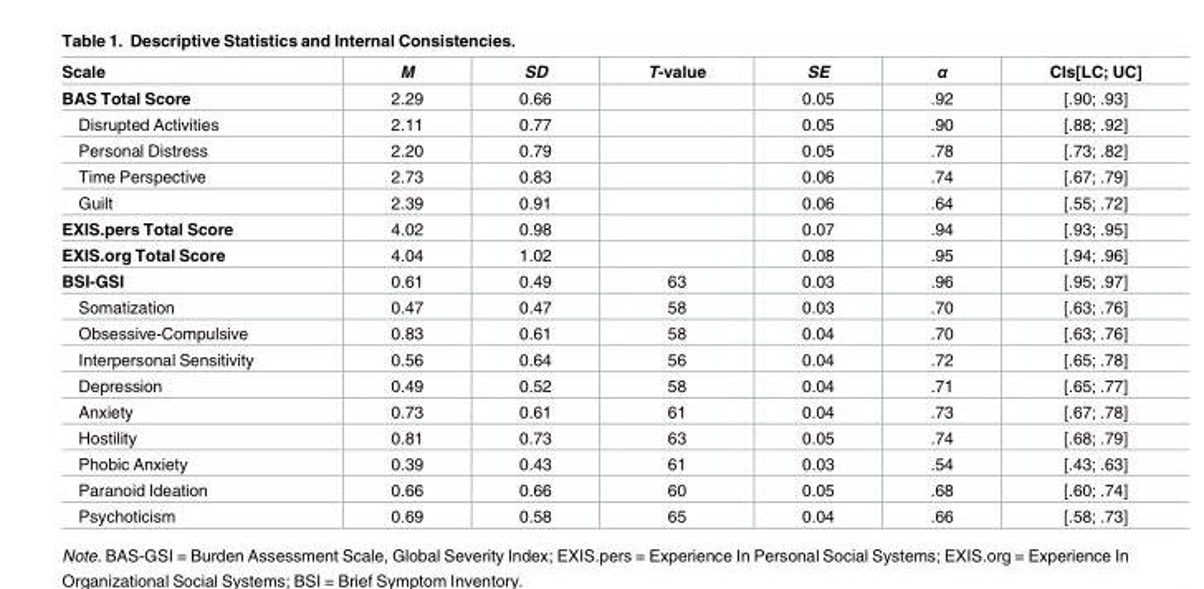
<table><thead><tr><td>Scale</td><td>M</td><td>SD</td><td>T-value</td><td>SE</td><td>α</td><td>CIs[LC; UC]</td></tr></thead><tbody><tr><td>BAS Total Score</td><td>2.29</td><td>0.66</td><td></td><td>0.05</td><td>.92</td><td>[.90; .93]</td></tr><tr><td>Disrupted Activities</td><td>2.11</td><td>0.77</td><td></td><td>0.05</td><td>.90</td><td>[.88; .92]</td></tr><tr><td>Personal Distress</td><td>2.20</td><td>0.79</td><td></td><td>0.05</td><td>.78</td><td>[.73; .82]</td></tr><tr><td>Time Perspective</td><td>2.73</td><td>0.83</td><td></td><td>0.06</td><td>.74</td><td>[.67; .79]</td></tr><tr><td>Guilt</td><td>2.39</td><td>0.91</td><td></td><td>0.06</td><td>.64</td><td>[.55; .72]</td></tr><tr><td>EXIS.pers Total Score</td><td>4.02</td><td>0.98</td><td></td><td>0.07</td><td>.94</td><td>[.93; .95]</td></tr><tr><td>EXIS.org Total Score</td><td>4.04</td><td>1.02</td><td></td><td>0.08</td><td>.95</td><td>[.94; .96]</td></tr><tr><td>BSI-GSI</td><td>0.61</td><td>0.49</td><td>63</td><td>0.03</td><td>.96</td><td>[.95; .97]</td></tr><tr><td>Somatization</td><td>0.47</td><td>0.47</td><td>58</td><td>0.03</td><td>.70</td><td>[.63; .76]</td></tr><tr><td>Obsessive-Compulsive</td><td>0.83</td><td>0.61</td><td>58</td><td>0.04</td><td>.70</td><td>[.63; .76]</td></tr><tr><td>Interpersonal Sensitivity</td><td>0.56</td><td>0.64</td><td>56</td><td>0.04</td><td>.72</td><td>[.65; .78]</td></tr><tr><td>Depression</td><td>0.49</td><td>0.52</td><td>58</td><td>0.04</td><td>.71</td><td>[.65; .77]</td></tr><tr><td>Anxiety</td><td>0.73</td><td>0.61</td><td>61</td><td>0.04</td><td>.73</td><td>[.67; .78]</td></tr><tr><td>Hostility</td><td>0.81</td><td>0.73</td><td>63</td><td>0.05</td><td>.74</td><td>[.68; .79]</td></tr><tr><td>Phobic Anxiety</td><td>0.39</td><td>0.43</td><td>61</td><td>0.03</td><td>.54</td><td>[.43; .63]</td></tr><tr><td>Paranoid Ideation</td><td>0.66</td><td>0.66</td><td>60</td><td>0.05</td><td>.68</td><td>[.60; .74]</td></tr><tr><td>Psychoticism</td><td>0.69</td><td>0.58</td><td>65</td><td>0.04</td><td>.66</td><td>[.58; .73]</td></tr></tbody></table>